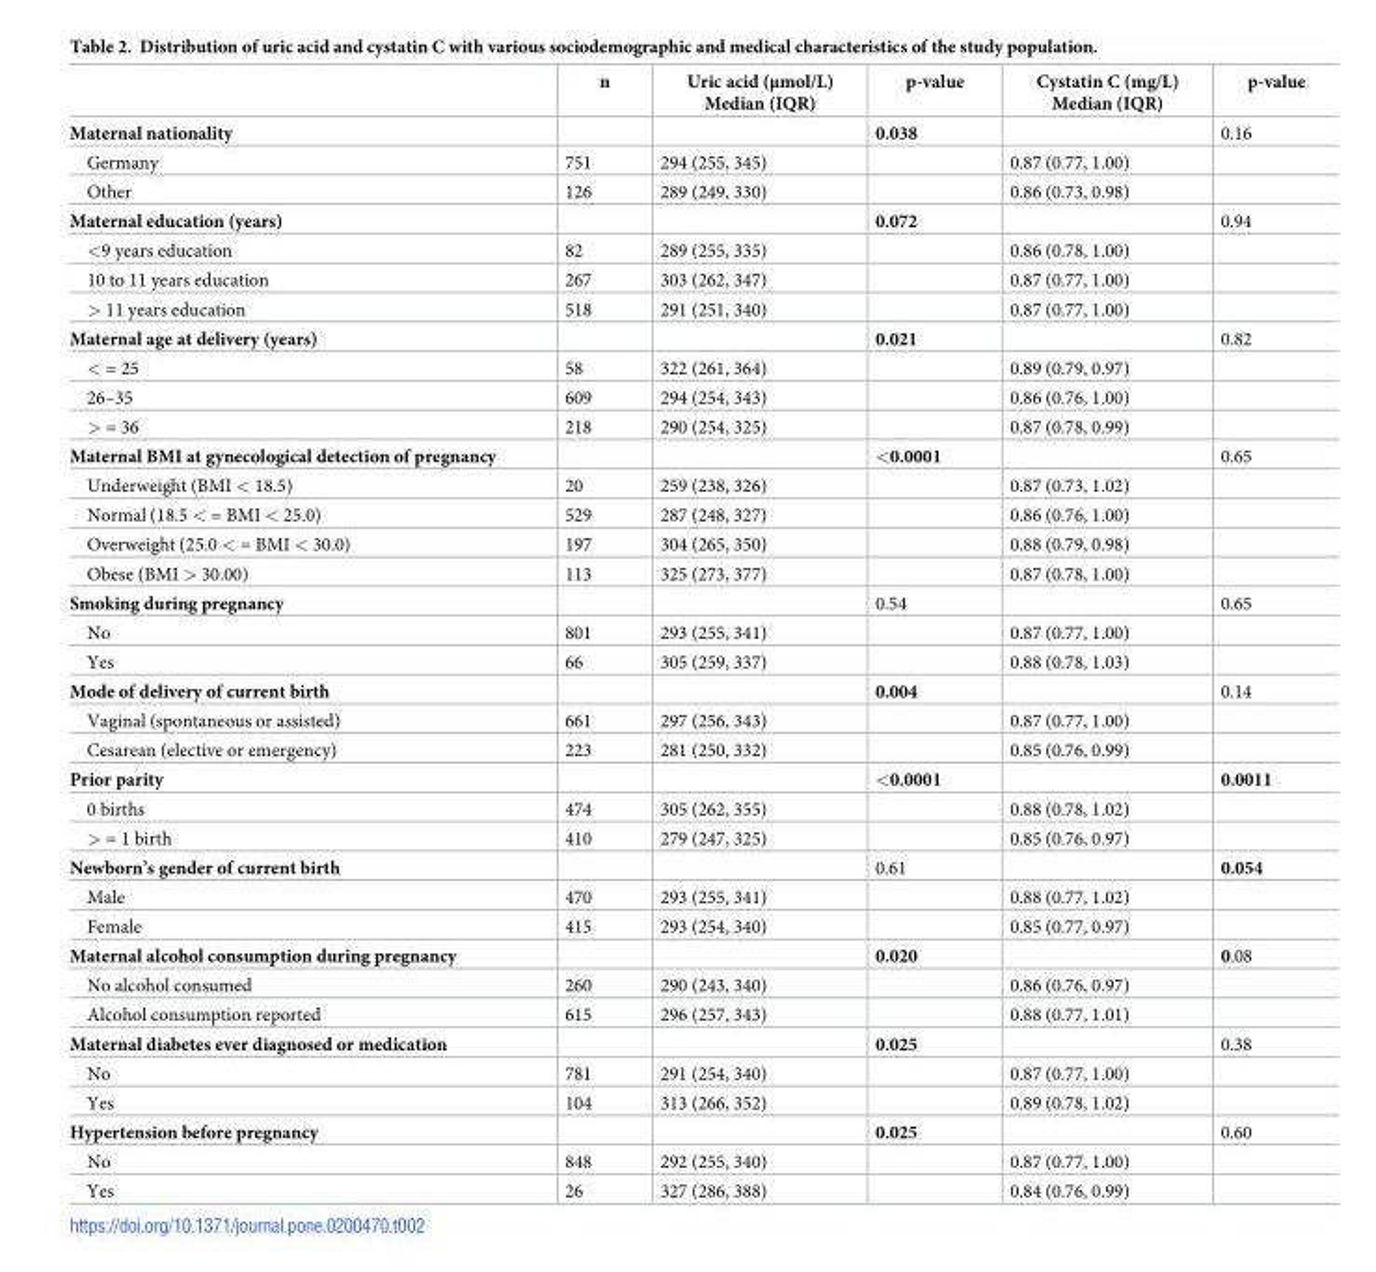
<table><thead><tr><td></td><td>n</td><td>Uric acid (μmol/L) Median (IQR)</td><td>p-value</td><td>Cystatin C (mg/L) Median (IQR)</td><td>p-value</td></tr></thead><tbody><tr><td>Maternal nationality</td><td></td><td></td><td>0.038</td><td></td><td>0.16</td></tr><tr><td>Germany</td><td>751</td><td>294 (255, 345)</td><td></td><td>0.87 (0.77, 1.00)</td><td></td></tr><tr><td>Other</td><td>126</td><td>289 (249, 330)</td><td></td><td>0.86 (0.73, 0.98)</td><td></td></tr><tr><td>Maternal education (years)</td><td></td><td></td><td>0.072</td><td></td><td>0.94</td></tr><tr><td>&lt;9 years education</td><td>82</td><td>289 (255, 335)</td><td></td><td>0.86 (0.78, 1.00)</td><td></td></tr><tr><td>10 to 11 years education</td><td>267</td><td>303 (262, 347)</td><td></td><td>0.87 (0.77, 1.00)</td><td></td></tr><tr><td>&gt; 11 years education</td><td>518</td><td>291 (251, 340)</td><td></td><td>0.87 (0.77, 1.00)</td><td></td></tr><tr><td>Maternal age at delivery (years)</td><td></td><td></td><td>0.021</td><td></td><td>0.82</td></tr><tr><td>&lt; = 25</td><td>58</td><td>322 (261, 364)</td><td></td><td>0.89 (0.79, 0.97)</td><td></td></tr><tr><td>26–35</td><td>609</td><td>294 (254, 343)</td><td></td><td>0.86 (0.76, 1.00)</td><td></td></tr><tr><td>&gt; = 36</td><td>218</td><td>290 (254, 325)</td><td></td><td>0.87 (0.78, 0.99)</td><td></td></tr><tr><td>Maternal BMI at gynecological detection of pregnancy</td><td></td><td></td><td>&lt;0.0001</td><td></td><td>0.65</td></tr><tr><td>Underweight (BMI &lt; 18.5)</td><td>20</td><td>259 (238, 326)</td><td></td><td>0.87 (0.73, 1.02)</td><td></td></tr><tr><td>Normal (18.5 &lt; = BMI &lt; 25.0)</td><td>529</td><td>287 (248, 327)</td><td></td><td>0.86 (0.76, 1.00)</td><td></td></tr><tr><td>Overweight (25.0 &lt; = BMI &lt; 30.0)</td><td>197</td><td>304 (265, 350)</td><td></td><td>0.88 (0.79, 0.98)</td><td></td></tr><tr><td>Obese (BMI &gt; 30.00)</td><td>113</td><td>325 (273, 377)</td><td></td><td>0.87 (0.78, 1.00)</td><td></td></tr><tr><td>Smoking during pregnancy</td><td></td><td></td><td>0.54</td><td></td><td>0.65</td></tr><tr><td>No</td><td>801</td><td>293 (255, 341)</td><td></td><td>0.87 (0.77, 1.00)</td><td></td></tr><tr><td>Yes</td><td>66</td><td>305 (259, 337)</td><td></td><td>0.88 (0.78, 1.03)</td><td></td></tr><tr><td>Mode of delivery of current birth</td><td></td><td></td><td>0.004</td><td></td><td>0.14</td></tr><tr><td>Vaginal (spontaneous or assisted)</td><td>661</td><td>297 (256, 343)</td><td></td><td>0.87 (0.77, 1.00)</td><td></td></tr><tr><td>Cesarean (elective or emergency)</td><td>223</td><td>281 (250, 332)</td><td></td><td>0.85 (0.76, 0.99)</td><td></td></tr><tr><td>Prior parity</td><td></td><td></td><td>&lt;0.0001</td><td></td><td>0.0011</td></tr><tr><td>0 births</td><td>474</td><td>305 (262, 355)</td><td></td><td>0.88 (0.78, 1.02)</td><td></td></tr><tr><td>&gt; = 1 birth</td><td>410</td><td>279 (247, 325)</td><td></td><td>0.85 (0.76, 0.97)</td><td></td></tr><tr><td>Newborn’s gender of current birth</td><td></td><td></td><td>0.61</td><td></td><td>0.054</td></tr><tr><td>Male</td><td>470</td><td>293 (255, 341)</td><td></td><td>0.88 (0.77, 1.02)</td><td></td></tr><tr><td>Female</td><td>415</td><td>293 (254, 340)</td><td></td><td>0.85 (0.77, 0.97)</td><td></td></tr><tr><td>Maternal alcohol consumption during pregnancy</td><td></td><td></td><td>0.020</td><td></td><td>0.08</td></tr><tr><td>No alcohol consumed</td><td>260</td><td>290 (243, 340)</td><td></td><td>0.86 (0.76, 0.97)</td><td></td></tr><tr><td>Alcohol consumption reported</td><td>615</td><td>296 (257, 343)</td><td></td><td>0.88 (0.77, 1.01)</td><td></td></tr><tr><td>Maternal diabetes ever diagnosed or medication</td><td></td><td></td><td>0.025</td><td></td><td>0.38</td></tr><tr><td>No</td><td>781</td><td>291 (254, 340)</td><td></td><td>0.87 (0.77, 1.00)</td><td></td></tr><tr><td>Yes</td><td>104</td><td>313 (266, 352)</td><td></td><td>0.89 (0.78, 1.02)</td><td></td></tr><tr><td>Hypertension before pregnancy</td><td></td><td></td><td>0.025</td><td></td><td>0.60</td></tr><tr><td>No</td><td>848</td><td>292 (255, 340)</td><td></td><td>0.87 (0.77, 1.00)</td><td></td></tr><tr><td>Yes</td><td>26</td><td>327 (286, 388)</td><td></td><td>0.84 (0.76, 0.99)</td><td></td></tr></tbody></table>